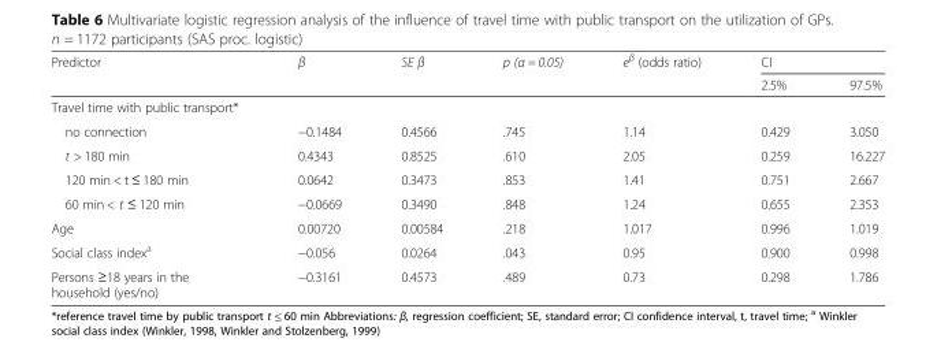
<table><thead><tr><td rowspan="2">Predictor</td><td rowspan="2">β</td><td rowspan="2">SE β</td><td rowspan="2">p (α = 0.05)</td><td rowspan="2">e<sup>β</sup> (odds ratio)</td><td colspan="2">CI</td></tr><tr><td>2.5%</td><td>97.5%</td></tr></thead><tbody><tr><td colspan="7">Travel time with public transport*</td></tr><tr><td>no connection</td><td>−0.1484</td><td>0.4566</td><td>.745</td><td>1.14</td><td>0.429</td><td>3.050</td></tr><tr><td>t &gt; 180 min</td><td>0.4343</td><td>0.8525</td><td>.610</td><td>2.05</td><td>0.259</td><td>16.227</td></tr><tr><td>120 min &lt; t ≤ 180 min</td><td>0.0642</td><td>0.3473</td><td>.853</td><td>1.41</td><td>0.751</td><td>2.667</td></tr><tr><td>60 min &lt; t ≤ 120 min</td><td>−0.0669</td><td>0.3490</td><td>.848</td><td>1.24</td><td>0.655</td><td>2.353</td></tr><tr><td>Age</td><td>0.00720</td><td>0.00584</td><td>.218</td><td>1.017</td><td>0.996</td><td>1.019</td></tr><tr><td>Social class index<sup>a</sup></td><td>−0.056</td><td>0.0264</td><td>.043</td><td>0.95</td><td>0.900</td><td>0.998</td></tr><tr><td>Persons ≥18 years in the household (yes/no)</td><td>−0.3161</td><td>0.4573</td><td>.489</td><td>0.73</td><td>0.298</td><td>1.786</td></tr></tbody></table>